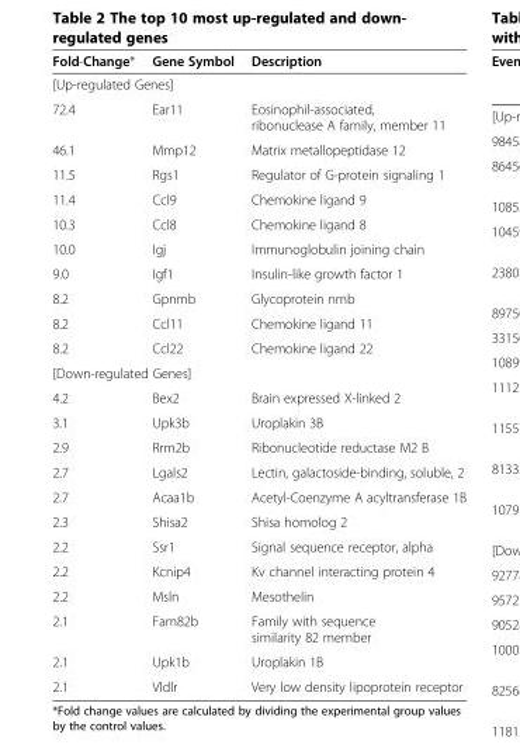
<table><thead><tr><td>Fold-Change*</td><td>Gene Symbol</td><td>Description</td></tr></thead><tbody><tr><td colspan="3">[Up-regulated Genes]</td></tr><tr><td>72.4</td><td>Ear11</td><td>Eosinophil-associated, ribonuclease A family, member 11</td></tr><tr><td>46.1</td><td>Mmp12</td><td>Matrix metallopeptidase 12</td></tr><tr><td>11.5</td><td>Rgs1</td><td>Regulator of G-protein signaling 1</td></tr><tr><td>11.4</td><td>Ccl9</td><td>Chemokine ligand 9</td></tr><tr><td>10.3</td><td>Ccl8</td><td>Chemokine ligand 8</td></tr><tr><td>10.0</td><td>Igj</td><td>Immunoglobulin joining chain</td></tr><tr><td>9.0</td><td>Igf1</td><td>Insulin-like growth factor 1</td></tr><tr><td>8.2</td><td>Gpnmb</td><td>Glycoprotein nmb</td></tr><tr><td>8.2</td><td>Ccl11</td><td>Chemokine ligand 11</td></tr><tr><td>8.2</td><td>Ccl22</td><td>Chemokine ligand 22</td></tr><tr><td colspan="3">[Down-regulated Genes]</td></tr><tr><td>4.2</td><td>Bex2</td><td>Brain expressed X-linked 2</td></tr><tr><td>3.1</td><td>Upk3b</td><td>Uroplakin 3B</td></tr><tr><td>2.9</td><td>Rrm2b</td><td>Ribonucleotide reductase M2 B</td></tr><tr><td>2.7</td><td>Lgals2</td><td>Lectin, galactoside-binding, soluble, 2</td></tr><tr><td>2.7</td><td>Acaa1b</td><td>Acetyl-Coenzyme A acyltransferase 1B</td></tr><tr><td>2.3</td><td>Shisa2</td><td>Shisa homolog 2</td></tr><tr><td>2.2</td><td>Ssr1</td><td>Signal sequence receptor, alpha</td></tr><tr><td>2.2</td><td>Kcnip4</td><td>Kv channel interacting protein 4</td></tr><tr><td>2.2</td><td>Msln</td><td>Mesothelin</td></tr><tr><td>2.1</td><td>Fam82b</td><td>Family with sequence similarity 82 member</td></tr><tr><td>2.1</td><td>Upk1b</td><td>Uroplakin 1B</td></tr><tr><td>2.1</td><td>Vldlr</td><td>Very low density lipoprotein receptor</td></tr></tbody></table>